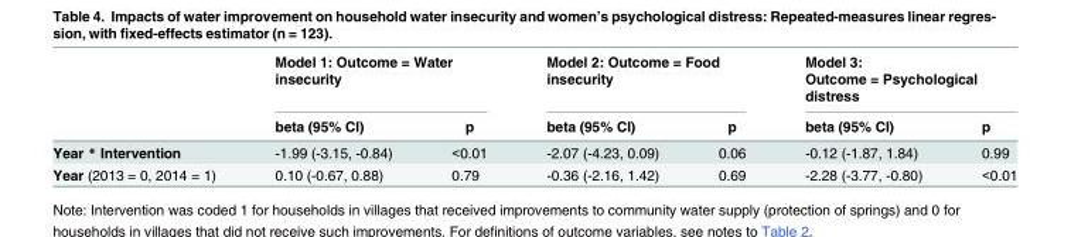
<table><thead><tr><td rowspan="2"></td><td colspan="2">Model 1: Outcome = Water insecurity</td><td colspan="2">Model 2: Outcome = Food insecurity</td><td colspan="2">Model 3: Outcome = Psychological distress</td></tr><tr><td>beta (95% CI)</td><td>p</td><td>beta (95% CI)</td><td>p</td><td>beta (95% CI)</td><td>p</td></tr></thead><tbody><tr><td>Year * Intervention</td><td>-1.99 (-3.15, -0.84)</td><td>&lt;0.01</td><td>-2.07 (-4.23, 0.09)</td><td>0.06</td><td>-0.12 (-1.87, 1.84)</td><td>0.99</td></tr><tr><td>Year (2013 = 0, 2014 = 1)</td><td>0.10 (-0.67, 0.88)</td><td>0.79</td><td>-0.36 (-2.16, 1.42)</td><td>0.69</td><td>-2.28 (-3.77, -0.80)</td><td>&lt;0.01</td></tr></tbody></table>